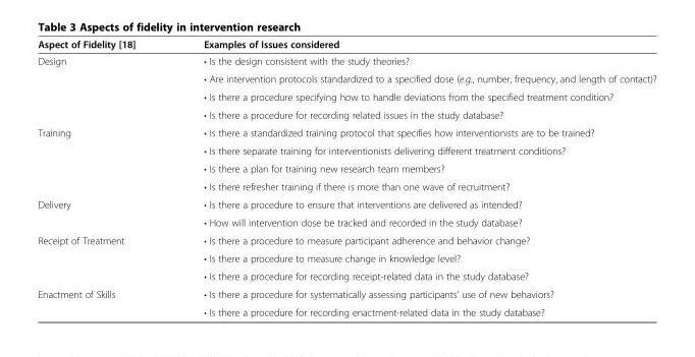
<table><thead><tr><td>Aspect of Fidelity [18]</td><td>Examples of Issues considered</td></tr></thead><tbody><tr><td rowspan="4">Design</td><td>• Is the design consistent with the study theories?</td></tr><tr><td>• Are intervention protocols standardized to a specified dose (e.g., number, frequency, and length of contact)?</td></tr><tr><td>• Is there a procedure specifying how to handle deviations from the specified treatment condition?</td></tr><tr><td>• Is there a procedure for recording related issues in the study database?</td></tr><tr><td rowspan="4">Training</td><td>• Is there a standardized training protocol that specifies how interventionists are to be trained?</td></tr><tr><td>• Is there separate training for interventionists delivering different treatment conditions?</td></tr><tr><td>• Is there a plan for training new research team members?</td></tr><tr><td>• Is there refresher training if there is more than one wave of recruitment?</td></tr><tr><td rowspan="2">Delivery</td><td>• Is there a procedure to ensure that interventions are delivered as intended?</td></tr><tr><td>• How will intervention dose be tracked and recorded in the study database?</td></tr><tr><td rowspan="3">Receipt of Treatment</td><td>• Is there a procedure to measure participant adherence and behavior change?</td></tr><tr><td>• Is there a procedure to measure change in knowledge level?</td></tr><tr><td>• Is there a procedure for recording receipt-related data in the study database?</td></tr><tr><td rowspan="2">Enactment of Skills</td><td>• Is there a procedure for systematically assessing participants’ use of new behaviors?</td></tr><tr><td>• Is there a procedure for recording enactment-related data in the study database?</td></tr></tbody></table>